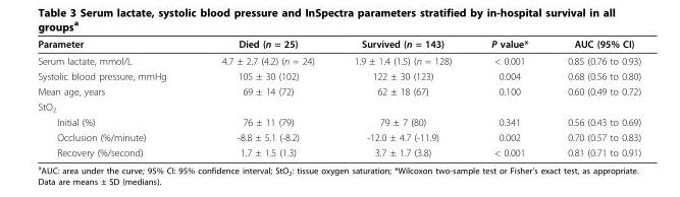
<table><thead><tr><td>Parameter</td><td>Died (n = 25)</td><td>Survived (n = 143)</td><td>P value*</td><td>AUC (95% CI)</td></tr></thead><tbody><tr><td>Serum lactate, mmol/L</td><td>4.7 ± 2.7 (4.2) (n = 24)</td><td>1.9 ± 1.4 (1.5) (n = 128)</td><td>&lt; 0.001</td><td>0.85 (0.76 to 0.93)</td></tr><tr><td>Systolic blood pressure, mmHg</td><td>105 ± 30 (102)</td><td>122 ± 30 (123)</td><td>0.004</td><td>0.68 (0.56 to 0.80)</td></tr><tr><td>Mean age, years</td><td>69 ± 14 (72)</td><td>62 ± 18 (67)</td><td>0.100</td><td>0.60 (0.49 to 0.72)</td></tr><tr><td colspan="5">StO<sub>2</sub></td></tr><tr><td>Initial (%)</td><td>76 ± 11 (79)</td><td>79 ± 7 (80)</td><td>0.341</td><td>0.56 (0.43 to 0.69)</td></tr><tr><td>Occlusion (%/minute)</td><td>-8.8 ± 5.1 (-8.2)</td><td>-12.0 ± 4.7 (-11.9)</td><td>0.002</td><td>0.70 (0.57 to 0.83)</td></tr><tr><td>Recovery (%/second)</td><td>1.7 ± 1.5 (1.3)</td><td>3.7 ± 1.7 (3.8)</td><td>&lt; 0.001</td><td>0.81 (0.71 to 0.91)</td></tr></tbody></table>